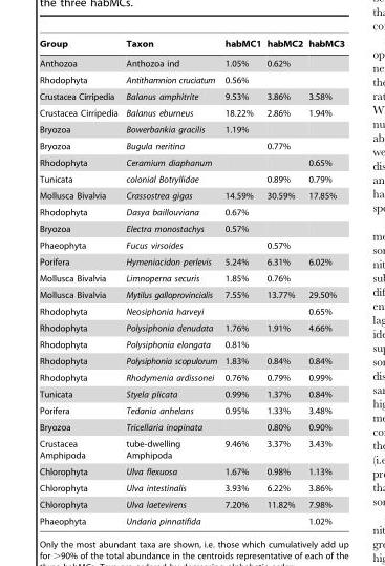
<table><thead><tr><td>Group</td><td>Taxon</td><td>habMC1</td><td>habMC2</td><td>habMC3</td></tr></thead><tbody><tr><td>Anthozoa</td><td>Anthozoa ind</td><td>1.05%</td><td>0.62%</td><td></td></tr><tr><td>Rhodophyta</td><td>Antithamnion cruciatum</td><td>0.56%</td><td></td><td></td></tr><tr><td>Crustacea Cirripedia</td><td>Balanus amphitrite</td><td>9.53%</td><td>3.86%</td><td>3.58%</td></tr><tr><td>Crustacea Cirripedia</td><td>Balanus eburneus</td><td>18.22%</td><td>2.86%</td><td>1.94%</td></tr><tr><td>Bryozoa</td><td>Bowerbankia gracilis</td><td>1.19%</td><td></td><td></td></tr><tr><td>Bryozoa</td><td>Bugula neritina</td><td></td><td>0.77%</td><td></td></tr><tr><td>Rhodophyta</td><td>Ceramium diaphanum</td><td></td><td></td><td>0.65%</td></tr><tr><td>Tunicata</td><td>colonial Botryllidae</td><td></td><td>0.89%</td><td>0.79%</td></tr><tr><td>Mollusca Bivalvia</td><td>Crassostrea gigas</td><td>14.59%</td><td>30.59%</td><td>17.85%</td></tr><tr><td>Rhodophyta</td><td>Dasya baillouviana</td><td>0.67%</td><td></td><td></td></tr><tr><td>Bryozoa</td><td>Electra monostachys</td><td>0.57%</td><td></td><td></td></tr><tr><td>Phaeophyta</td><td>Fucus virsoides</td><td></td><td>0.57%</td><td></td></tr><tr><td>Porifera</td><td>Hymeniacidon perlevis</td><td>5.24%</td><td>6.31%</td><td>6.02%</td></tr><tr><td>Mollusca Bivalvia</td><td>Limnoperna securis</td><td>1.85%</td><td>0.76%</td><td></td></tr><tr><td>Mollusca Bivalvia</td><td>Mytilus galloprovincialis</td><td>7.55%</td><td>13.77%</td><td>29.50%</td></tr><tr><td>Rhodophyta</td><td>Neosiphonia harveyi</td><td></td><td></td><td>0.65%</td></tr><tr><td>Rhodophyta</td><td>Polysiphonia denudata</td><td>1.76%</td><td>1.91%</td><td>4.66%</td></tr><tr><td>Rhodophyta</td><td>Polysiphonia elongata</td><td>0.81%</td><td></td><td></td></tr><tr><td>Rhodophyta</td><td>Polysiphonia scopulorum</td><td>1.83%</td><td>0.84%</td><td>0.84%</td></tr><tr><td>Rhodophyta</td><td>Rhodymenia ardissonei</td><td>0.76%</td><td>0.79%</td><td>0.99%</td></tr><tr><td>Tunicata</td><td>Styela plicata</td><td>0.99%</td><td>1.37%</td><td>0.84%</td></tr><tr><td>Porifera</td><td>Tedania anhelans</td><td>0.95%</td><td>1.33%</td><td>3.48%</td></tr><tr><td>Bryozoa</td><td>Tricellaria inopinata</td><td></td><td>0.80%</td><td>0.90%</td></tr><tr><td>Crustacea Amphipoda</td><td>tube-dwelling Amphipoda</td><td>9.46%</td><td>3.37%</td><td>3.43%</td></tr><tr><td>Chlorophyta</td><td>Ulva flexuosa</td><td>1.67%</td><td>0.98%</td><td>1.13%</td></tr><tr><td>Chlorophyta</td><td>Ulva intestinalis</td><td>3.93%</td><td>6.22%</td><td>3.86%</td></tr><tr><td>Chlorophyta</td><td>Ulva laetevirens</td><td>7.20%</td><td>11.82%</td><td>7.98%</td></tr><tr><td>Phaeophyta</td><td>Undaria pinnatifida</td><td></td><td></td><td>1.02%</td></tr></tbody></table>